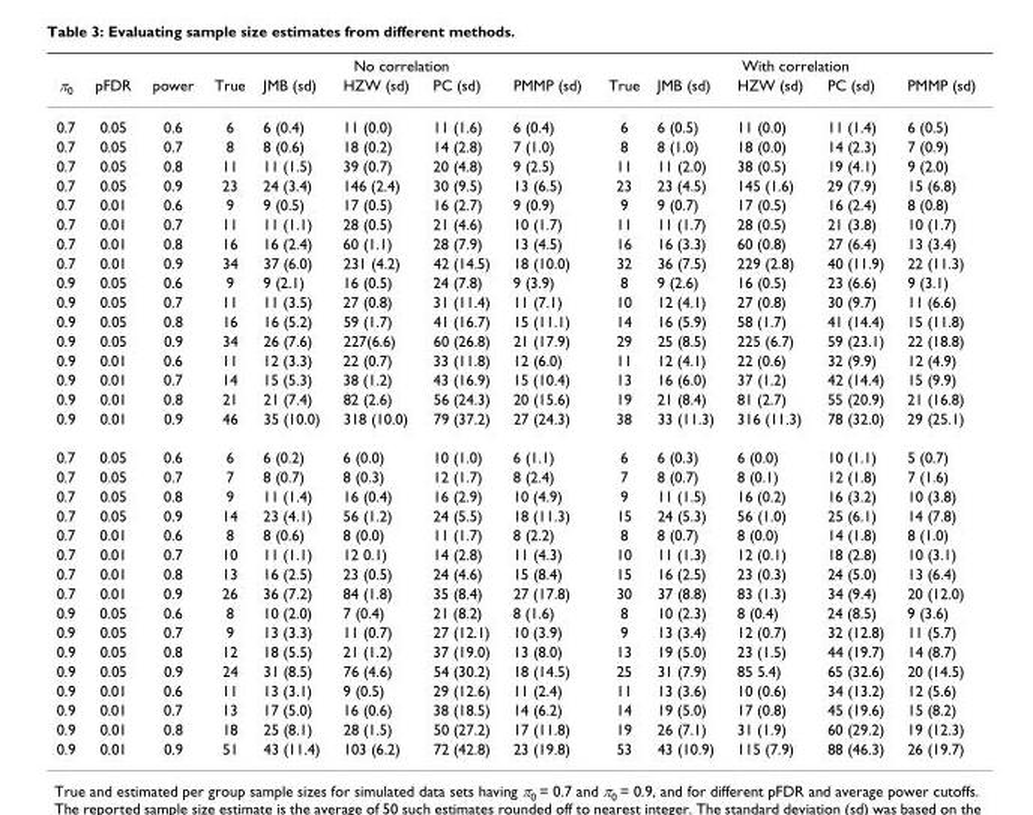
<table><thead><tr><td rowspan="2">π<sub>0</sub></td><td rowspan="2">pFDR</td><td rowspan="2">power</td><td colspan="5">No correlation</td><td colspan="5">With correlation</td></tr><tr><td>True</td><td>JMB (sd)</td><td>HZW (sd)</td><td>PC (sd)</td><td>PMMP (sd)</td><td>True</td><td>JMB (sd)</td><td>HZW (sd)</td><td>PC (sd)</td><td>PMMP (sd)</td></tr></thead><tbody><tr><td>0.7</td><td>0.05</td><td>0.6</td><td>6</td><td>6 (0.4)</td><td>11 (0.0)</td><td>11 (1.6)</td><td>6 (0.4)</td><td>6</td><td>6 (0.5)</td><td>11 (0.0)</td><td>11 (1.4)</td><td>6 (0.5)</td></tr><tr><td>0.7</td><td>0.05</td><td>0.7</td><td>8</td><td>8 (0.6)</td><td>18 (0.2)</td><td>14 (2.8)</td><td>7 (1.0)</td><td>8</td><td>8 (1.0)</td><td>18 (0.0)</td><td>14 (2.3)</td><td>7 (0.9)</td></tr><tr><td>0.7</td><td>0.05</td><td>0.8</td><td>11</td><td>11 (1.5)</td><td>39 (0.7)</td><td>20 (4.8)</td><td>9 (2.5)</td><td>11</td><td>11 (2.0)</td><td>38 (0.5)</td><td>19 (4.1)</td><td>9 (2.0)</td></tr><tr><td>0.7</td><td>0.05</td><td>0.9</td><td>23</td><td>24 (3.4)</td><td>146 (2.4)</td><td>30 (9.5)</td><td>13 (6.5)</td><td>23</td><td>23 (4.5)</td><td>145 (1.6)</td><td>29 (7.9)</td><td>15 (6.8)</td></tr><tr><td>0.7</td><td>0.01</td><td>0.6</td><td>9</td><td>9 (0.5)</td><td>17 (0.5)</td><td>16 (2.7)</td><td>9 (0.9)</td><td>9</td><td>9 (0.7)</td><td>17 (0.5)</td><td>16 (2.4)</td><td>8 (0.8)</td></tr><tr><td>0.7</td><td>0.01</td><td>0.7</td><td>11</td><td>11 (1.1)</td><td>28 (0.5)</td><td>21 (4.6)</td><td>10 (1.7)</td><td>11</td><td>11 (1.7)</td><td>28 (0.5)</td><td>21 (3.8)</td><td>10 (1.7)</td></tr><tr><td>0.7</td><td>0.01</td><td>0.8</td><td>16</td><td>16 (2.4)</td><td>60 (1.1)</td><td>28 (7.9)</td><td>13 (4.5)</td><td>16</td><td>16 (3.3)</td><td>60 (0.8)</td><td>27 (6.4)</td><td>13 (3.4)</td></tr><tr><td>0.7</td><td>0.01</td><td>0.9</td><td>34</td><td>37 (6.0)</td><td>231 (4.2)</td><td>42 (14.5)</td><td>18 (10.0)</td><td>32</td><td>36 (7.5)</td><td>229 (2.8)</td><td>40 (11.9)</td><td>22 (11.3)</td></tr><tr><td>0.9</td><td>0.05</td><td>0.6</td><td>9</td><td>9 (2.1)</td><td>16 (0.5)</td><td>24 (7.8)</td><td>9 (3.9)</td><td>8</td><td>9 (2.6)</td><td>16 (0.5)</td><td>23 (6.6)</td><td>9 (3.1)</td></tr><tr><td>0.9</td><td>0.05</td><td>0.7</td><td>11</td><td>11 (3.5)</td><td>27 (0.8)</td><td>31 (11.4)</td><td>11 (7.1)</td><td>10</td><td>12 (4.1)</td><td>27 (0.8)</td><td>30 (9.7)</td><td>11 (6.6)</td></tr><tr><td>0.9</td><td>0.05</td><td>0.8</td><td>16</td><td>16 (5.2)</td><td>59 (1.7)</td><td>41 (16.7)</td><td>15 (11.1)</td><td>14</td><td>16 (5.9)</td><td>58 (1.7)</td><td>41 (14.4)</td><td>15 (11.8)</td></tr><tr><td>0.9</td><td>0.05</td><td>0.9</td><td>34</td><td>26 (7.6)</td><td>227(6.6)</td><td>60 (26.8)</td><td>21 (17.9)</td><td>29</td><td>25 (8.5)</td><td>225 (6.7)</td><td>59 (23.1)</td><td>22 (18.8)</td></tr><tr><td>0.9</td><td>0.01</td><td>0.6</td><td>11</td><td>12 (3.3)</td><td>22 (0.7)</td><td>33 (11.8)</td><td>12 (6.0)</td><td>11</td><td>12 (4.1)</td><td>22 (0.6)</td><td>32 (9.9)</td><td>12 (4.9)</td></tr><tr><td>0.9</td><td>0.01</td><td>0.7</td><td>14</td><td>15 (5.3)</td><td>38 (1.2)</td><td>43 (16.9)</td><td>15 (10.4)</td><td>13</td><td>16 (6.0)</td><td>37 (1.2)</td><td>42 (14.4)</td><td>15 (9.9)</td></tr><tr><td>0.9</td><td>0.01</td><td>0.8</td><td>21</td><td>21 (7.4)</td><td>82 (2.6)</td><td>56 (24.3)</td><td>20 (15.6)</td><td>19</td><td>21 (8.4)</td><td>81 (2.7)</td><td>55 (20.9)</td><td>21 (16.8)</td></tr><tr><td>0.9</td><td>0.01</td><td>0.9</td><td>46</td><td>35 (10.0)</td><td>318 (10.0)</td><td>79 (37.2)</td><td>27 (24.3)</td><td>38</td><td>33 (11.3)</td><td>316 (11.3)</td><td>78 (32.0)</td><td>29 (25.1)</td></tr><tr><td>0.7</td><td>0.05</td><td>0.6</td><td>6</td><td>6 (0.2)</td><td>6 (0.0)</td><td>10 (1.0)</td><td>6 (1.1)</td><td>6</td><td>6 (0.3)</td><td>6 (0.0)</td><td>10 (1.1)</td><td>5 (0.7)</td></tr><tr><td>0.7</td><td>0.05</td><td>0.7</td><td>7</td><td>8 (0.7)</td><td>8 (0.3)</td><td>12 (1.7)</td><td>8 (2.4)</td><td>7</td><td>8 (0.7)</td><td>8 (0.1)</td><td>12 (1.8)</td><td>7 (1.6)</td></tr><tr><td>0.7</td><td>0.05</td><td>0.8</td><td>9</td><td>11 (1.4)</td><td>16 (0.4)</td><td>16 (2.9)</td><td>10 (4.9)</td><td>9</td><td>11 (1.5)</td><td>16 (0.2)</td><td>16 (3.2)</td><td>10 (3.8)</td></tr><tr><td>0.7</td><td>0.05</td><td>0.9</td><td>14</td><td>23 (4.1)</td><td>56 (1.2)</td><td>24 (5.5)</td><td>18 (11.3)</td><td>15</td><td>24 (5.3)</td><td>56 (1.0)</td><td>25 (6.1)</td><td>14 (7.8)</td></tr><tr><td>0.7</td><td>0.01</td><td>0.6</td><td>8</td><td>8 (0.6)</td><td>8 (0.0)</td><td>11 (1.7)</td><td>8 (2.2)</td><td>8</td><td>8 (0.7)</td><td>8 (0.0)</td><td>14 (1.8)</td><td>8 (1.0)</td></tr><tr><td>0.7</td><td>0.01</td><td>0.7</td><td>10</td><td>11 (1.1)</td><td>12 0.1)</td><td>14 (2.8)</td><td>11 (4.3)</td><td>10</td><td>11 (1.3)</td><td>12 (0.1)</td><td>18 (2.8)</td><td>10 (3.1)</td></tr><tr><td>0.7</td><td>0.01</td><td>0.8</td><td>13</td><td>16 (2.5)</td><td>23 (0.5)</td><td>24 (4.6)</td><td>15 (8.4)</td><td>15</td><td>16 (2.5)</td><td>23 (0.3)</td><td>24 (5.0)</td><td>13 (6.4)</td></tr><tr><td>0.7</td><td>0.01</td><td>0.9</td><td>26</td><td>36 (7.2)</td><td>84 (1.8)</td><td>35 (8.4)</td><td>27 (17.8)</td><td>30</td><td>37 (8.8)</td><td>83 (1.3)</td><td>34 (9.4)</td><td>20 (12.0)</td></tr><tr><td>0.9</td><td>0.05</td><td>0.6</td><td>8</td><td>10 (2.0)</td><td>7 (0.4)</td><td>21 (8.2)</td><td>8 (1.6)</td><td>8</td><td>10 (2.3)</td><td>8 (0.4)</td><td>24 (8.5)</td><td>9 (3.6)</td></tr><tr><td>0.9</td><td>0.05</td><td>0.7</td><td>9</td><td>13 (3.3)</td><td>11 (0.7)</td><td>27 (12.1)</td><td>10 (3.9)</td><td>9</td><td>13 (3.4)</td><td>12 (0.7)</td><td>32 (12.8)</td><td>11 (5.7)</td></tr><tr><td>0.9</td><td>0.05</td><td>0.8</td><td>12</td><td>18 (5.5)</td><td>21 (1.2)</td><td>37 (19.0)</td><td>13 (8.0)</td><td>13</td><td>19 (5.0)</td><td>23 (1.5)</td><td>44 (19.7)</td><td>14 (8.7)</td></tr><tr><td>0.9</td><td>0.05</td><td>0.9</td><td>24</td><td>31 (8.5)</td><td>76 (4.6)</td><td>54 (30.2)</td><td>18 (14.5)</td><td>25</td><td>31 (7.9)</td><td>85 5.4)</td><td>65 (32.6)</td><td>20 (14.5)</td></tr><tr><td>0.9</td><td>0.01</td><td>0.6</td><td>11</td><td>13 (3.1)</td><td>9 (0.5)</td><td>29 (12.6)</td><td>11 (2.4)</td><td>11</td><td>13 (3.6)</td><td>10 (0.6)</td><td>34 (13.2)</td><td>12 (5.6)</td></tr><tr><td>0.9</td><td>0.01</td><td>0.7</td><td>13</td><td>17 (5.0)</td><td>16 (0.6)</td><td>38 (18.5)</td><td>14 (6.2)</td><td>14</td><td>19 (5.0)</td><td>17 (0.8)</td><td>45 (19.6)</td><td>15 (8.2)</td></tr><tr><td>0.9</td><td>0.01</td><td>0.8</td><td>18</td><td>25 (8.1)</td><td>28 (1.5)</td><td>50 (27.2)</td><td>17 (11.8)</td><td>19</td><td>26 (7.1)</td><td>31 (1.9)</td><td>60 (29.2)</td><td>19 (12.3)</td></tr><tr><td>0.9</td><td>0.01</td><td>0.9</td><td>51</td><td>43 (11.4)</td><td>103 (6.2)</td><td>72 (42.8)</td><td>23 (19.8)</td><td>53</td><td>43 (10.9)</td><td>115 (7.9)</td><td>88 (46.3)</td><td>26 (19.7)</td></tr></tbody></table>